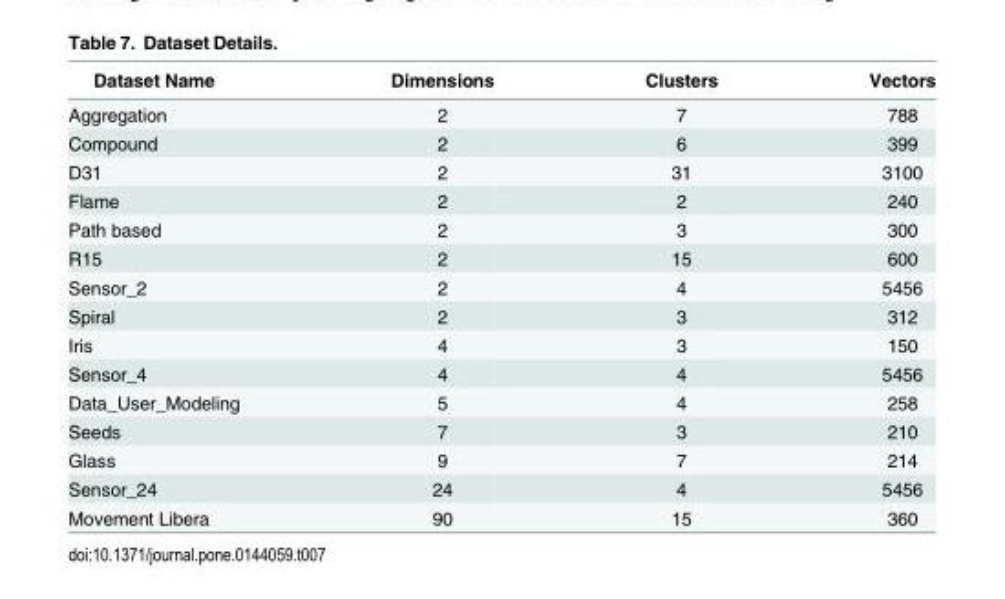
<table><thead><tr><td>Dataset Name</td><td>Dimensions</td><td>Clusters</td><td>Vectors</td></tr></thead><tbody><tr><td>Aggregation</td><td>2</td><td>7</td><td>788</td></tr><tr><td>Compound</td><td>2</td><td>6</td><td>399</td></tr><tr><td>D31</td><td>2</td><td>31</td><td>3100</td></tr><tr><td>Flame</td><td>2</td><td>2</td><td>240</td></tr><tr><td>Path based</td><td>2</td><td>3</td><td>300</td></tr><tr><td>R15</td><td>2</td><td>15</td><td>600</td></tr><tr><td>Sensor_2</td><td>2</td><td>4</td><td>5456</td></tr><tr><td>Spiral</td><td>2</td><td>3</td><td>312</td></tr><tr><td>Iris</td><td>4</td><td>3</td><td>150</td></tr><tr><td>Sensor_4</td><td>4</td><td>4</td><td>5456</td></tr><tr><td>Data_User_Modeling</td><td>5</td><td>4</td><td>258</td></tr><tr><td>Seeds</td><td>7</td><td>3</td><td>210</td></tr><tr><td>Glass</td><td>9</td><td>7</td><td>214</td></tr><tr><td>Sensor_24</td><td>24</td><td>4</td><td>5456</td></tr><tr><td>Movement Libera</td><td>90</td><td>15</td><td>360</td></tr></tbody></table>